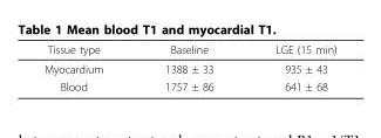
<table><thead><tr><td>Tissue type</td><td>Baseline</td><td>LGE (15 min)</td></tr></thead><tbody><tr><td>Myocardium</td><td>1388 ± 33</td><td>935 ± 43</td></tr><tr><td>Blood</td><td>1757 ± 86</td><td>641 ± 68</td></tr></tbody></table>